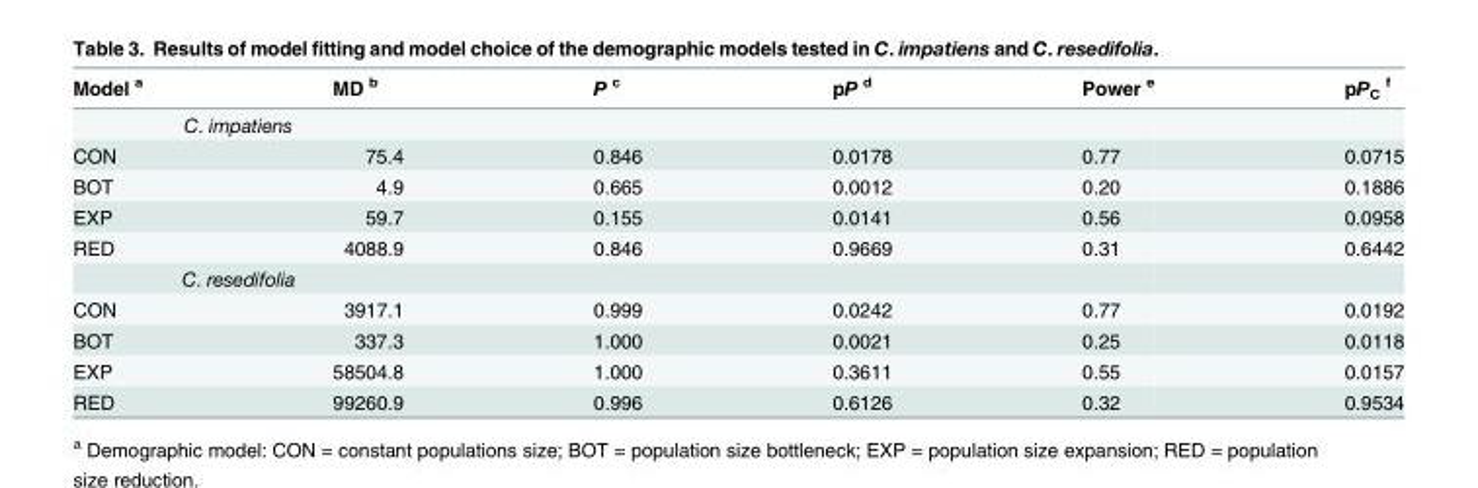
<table><thead><tr><td>Model <sup>a</sup></td><td>MD <sup>b</sup></td><td>P <sup>c</sup></td><td>pP <sup>d</sup></td><td>Power <sup>e</sup></td><td>pP<sub>C</sub> <sup>f</sup></td></tr></thead><tbody><tr><td colspan="6">C. impatiens</td></tr><tr><td>CON</td><td>75.4</td><td>0.846</td><td>0.0178</td><td>0.77</td><td>0.0715</td></tr><tr><td>BOT</td><td>4.9</td><td>0.665</td><td>0.0012</td><td>0.20</td><td>0.1886</td></tr><tr><td>EXP</td><td>59.7</td><td>0.155</td><td>0.0141</td><td>0.56</td><td>0.0958</td></tr><tr><td>RED</td><td>4088.9</td><td>0.846</td><td>0.9669</td><td>0.31</td><td>0.6442</td></tr><tr><td colspan="6">C. resedifolia</td></tr><tr><td>CON</td><td>3917.1</td><td>0.999</td><td>0.0242</td><td>0.77</td><td>0.0192</td></tr><tr><td>BOT</td><td>337.3</td><td>1.000</td><td>0.0021</td><td>0.25</td><td>0.0118</td></tr><tr><td>EXP</td><td>58504.8</td><td>1.000</td><td>0.3611</td><td>0.55</td><td>0.0157</td></tr><tr><td>RED</td><td>99260.9</td><td>0.996</td><td>0.6126</td><td>0.32</td><td>0.9534</td></tr></tbody></table>